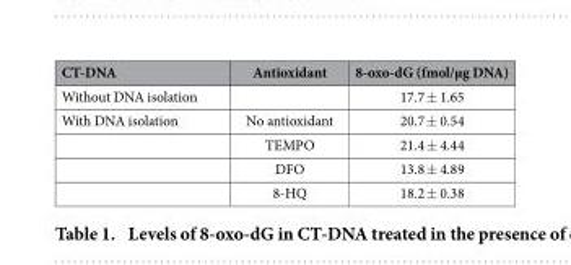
<table><thead><tr><td>CT-DNA</td><td>Antioxidant</td><td>8-oxo-dG (fmol/μg DNA)</td></tr></thead><tbody><tr><td>Without DNA isolation</td><td></td><td>17.7 ± 1.65</td></tr><tr><td rowspan="4">With DNA isolation</td><td>No antioxidant</td><td>20.7 ± 0.54</td></tr><tr><td>TEMPO</td><td>21.4 ± 4.44</td></tr><tr><td>DFO</td><td>13.8 ± 4.89</td></tr><tr><td>8-HQ</td><td>18.2 ± 0.38</td></tr></tbody></table>